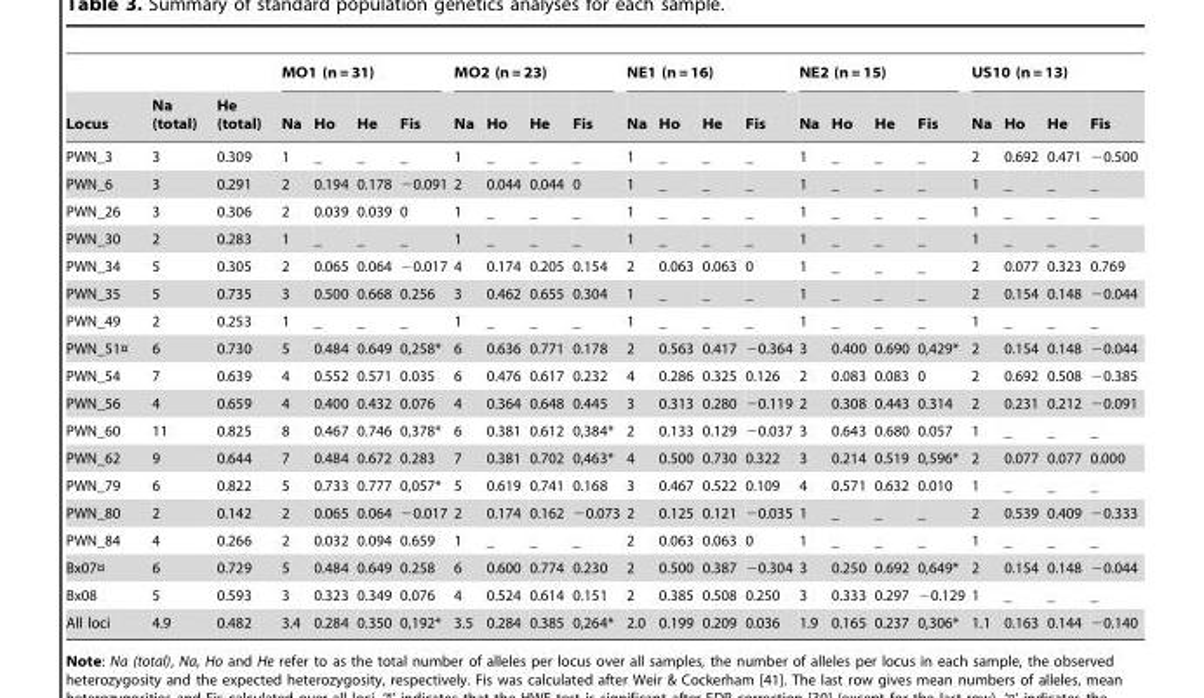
<table><thead><tr><td rowspan="2">Locus</td><td rowspan="2">Na (total)</td><td rowspan="2">He (total)</td><td colspan="4">MO1 (n = 31)</td><td colspan="4">MO2 (n = 23)</td><td colspan="4">NE1 (n = 16)</td><td colspan="4">NE2 (n = 15)</td><td colspan="4">US10 (n = 13)</td></tr><tr><td>Na</td><td>Ho</td><td>He</td><td>Fis</td><td>Na</td><td>Ho</td><td>He</td><td>Fis</td><td>Na</td><td>Ho</td><td>He</td><td>Fis</td><td>Na</td><td>Ho</td><td>He</td><td>Fis</td><td>Na</td><td>Ho</td><td>He</td><td>Fis</td></tr></thead><tbody><tr><td>PWN_3</td><td>3</td><td>0.309</td><td>1</td><td>_</td><td>_</td><td>_</td><td>1</td><td>_</td><td>_</td><td>_</td><td>1</td><td>_</td><td>_</td><td>_</td><td>1</td><td>_</td><td>_</td><td>_</td><td>2</td><td>0.692</td><td>0.471</td><td>−0.500</td></tr><tr><td>PWN_6</td><td>3</td><td>0.291</td><td>2</td><td>0.194</td><td>0.178</td><td>−0.091</td><td>2</td><td>0.044</td><td>0.044</td><td>0</td><td>1</td><td>_</td><td>_</td><td>_</td><td>1</td><td>_</td><td>_</td><td>_</td><td>1</td><td>_</td><td>_</td><td>_</td></tr><tr><td>PWN_26</td><td>3</td><td>0.306</td><td>2</td><td>0.039</td><td>0.039</td><td>0</td><td>1</td><td>_</td><td>_</td><td>_</td><td>1</td><td>_</td><td>_</td><td>_</td><td>1</td><td>_</td><td>_</td><td>_</td><td>1</td><td>_</td><td>_</td><td>_</td></tr><tr><td>PWN_30</td><td>2</td><td>0.283</td><td>1</td><td>_</td><td>_</td><td>_</td><td>1</td><td>_</td><td>_</td><td>_</td><td>1</td><td>_</td><td>_</td><td>_</td><td>1</td><td>_</td><td>_</td><td>_</td><td>1</td><td>_</td><td>_</td><td>_</td></tr><tr><td>PWN_34</td><td>5</td><td>0.305</td><td>2</td><td>0.065</td><td>0.064</td><td>−0.017</td><td>4</td><td>0.174</td><td>0.205</td><td>0.154</td><td>2</td><td>0.063</td><td>0.063</td><td>0</td><td>1</td><td>_</td><td>_</td><td>_</td><td>2</td><td>0.077</td><td>0.323</td><td>0.769</td></tr><tr><td>PWN_35</td><td>5</td><td>0.735</td><td>3</td><td>0.500</td><td>0.668</td><td>0.256</td><td>3</td><td>0.462</td><td>0.655</td><td>0.304</td><td>1</td><td>_</td><td>_</td><td>_</td><td>1</td><td>_</td><td>_</td><td>_</td><td>2</td><td>0.154</td><td>0.148</td><td>−0.044</td></tr><tr><td>PWN_49</td><td>2</td><td>0.253</td><td>1</td><td>_</td><td>_</td><td>_</td><td>1</td><td>_</td><td>_</td><td>_</td><td>1</td><td>_</td><td>_</td><td>_</td><td>1</td><td>_</td><td>_</td><td>_</td><td>1</td><td>_</td><td>_</td><td>_</td></tr><tr><td>PWN_51¤</td><td>6</td><td>0.730</td><td>5</td><td>0.484</td><td>0.649</td><td>0,258*</td><td>6</td><td>0.636</td><td>0.771</td><td>0.178</td><td>2</td><td>0.563</td><td>0.417</td><td>−0.364</td><td>3</td><td>0.400</td><td>0.690</td><td>0,429*</td><td>2</td><td>0.154</td><td>0.148</td><td>−0.044</td></tr><tr><td>PWN_54</td><td>7</td><td>0.639</td><td>4</td><td>0.552</td><td>0.571</td><td>0.035</td><td>6</td><td>0.476</td><td>0.617</td><td>0.232</td><td>4</td><td>0.286</td><td>0.325</td><td>0.126</td><td>2</td><td>0.083</td><td>0.083</td><td>0</td><td>2</td><td>0.692</td><td>0.508</td><td>−0.385</td></tr><tr><td>PWN_56</td><td>4</td><td>0.659</td><td>4</td><td>0.400</td><td>0.432</td><td>0.076</td><td>4</td><td>0.364</td><td>0.648</td><td>0.445</td><td>3</td><td>0.313</td><td>0.280</td><td>−0.119</td><td>2</td><td>0.308</td><td>0.443</td><td>0.314</td><td>2</td><td>0.231</td><td>0.212</td><td>−0.091</td></tr><tr><td>PWN_60</td><td>11</td><td>0.825</td><td>8</td><td>0.467</td><td>0.746</td><td>0,378*</td><td>6</td><td>0.381</td><td>0.612</td><td>0,384*</td><td>2</td><td>0.133</td><td>0.129</td><td>−0.037</td><td>3</td><td>0.643</td><td>0.680</td><td>0.057</td><td>1</td><td>_</td><td>_</td><td>_</td></tr><tr><td>PWN_62</td><td>9</td><td>0.644</td><td>7</td><td>0.484</td><td>0.672</td><td>0.283</td><td>7</td><td>0.381</td><td>0.702</td><td>0,463*</td><td>4</td><td>0.500</td><td>0.730</td><td>0.322</td><td>3</td><td>0.214</td><td>0.519</td><td>0,596*</td><td>2</td><td>0.077</td><td>0.077</td><td>0.000</td></tr><tr><td>PWN_79</td><td>6</td><td>0.822</td><td>5</td><td>0.733</td><td>0.777</td><td>0,057*</td><td>5</td><td>0.619</td><td>0.741</td><td>0.168</td><td>3</td><td>0.467</td><td>0.522</td><td>0.109</td><td>4</td><td>0.571</td><td>0.632</td><td>0.010</td><td>1</td><td>_</td><td>_</td><td>_</td></tr><tr><td>PWN_80</td><td>2</td><td>0.142</td><td>2</td><td>0.065</td><td>0.064</td><td>−0.017</td><td>2</td><td>0.174</td><td>0.162</td><td>−0.073</td><td>2</td><td>0.125</td><td>0.121</td><td>−0.035</td><td>1</td><td>_</td><td>_</td><td>_</td><td>2</td><td>0.539</td><td>0.409</td><td>−0.333</td></tr><tr><td>PWN_84</td><td>4</td><td>0.266</td><td>2</td><td>0.032</td><td>0.094</td><td>0.659</td><td>1</td><td>_</td><td>_</td><td>_</td><td>2</td><td>0.063</td><td>0.063</td><td>0</td><td>1</td><td>_</td><td>_</td><td>_</td><td>1</td><td>_</td><td>_</td><td>_</td></tr><tr><td>Bx07¤</td><td>6</td><td>0.729</td><td>5</td><td>0.484</td><td>0.649</td><td>0.258</td><td>6</td><td>0.600</td><td>0.774</td><td>0.230</td><td>2</td><td>0.500</td><td>0.387</td><td>−0.304</td><td>3</td><td>0.250</td><td>0.692</td><td>0,649*</td><td>2</td><td>0.154</td><td>0.148</td><td>−0.044</td></tr><tr><td>Bx08</td><td>5</td><td>0.593</td><td>3</td><td>0.323</td><td>0.349</td><td>0.076</td><td>4</td><td>0.524</td><td>0.614</td><td>0.151</td><td>2</td><td>0.385</td><td>0.508</td><td>0.250</td><td>3</td><td>0.333</td><td>0.297</td><td>−0.129</td><td>1</td><td>_</td><td>_</td><td>_</td></tr><tr><td>All loci</td><td>4.9</td><td>0.482</td><td>3.4</td><td>0.284</td><td>0.350</td><td>0,192*</td><td>3.5</td><td>0.284</td><td>0.385</td><td>0,264*</td><td>2.0</td><td>0.199</td><td>0.209</td><td>0.036</td><td>1.9</td><td>0.165</td><td>0.237</td><td>0,306*</td><td>1.1</td><td>0.163</td><td>0.144</td><td>−0.140</td></tr></tbody></table>